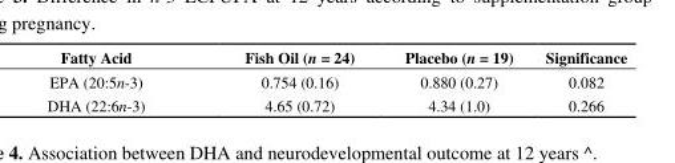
<table><thead><tr><td>Fatty Acid</td><td>Fish Oil (n = 24)</td><td>Placebo (n = 19)</td><td>Significance</td></tr></thead><tbody><tr><td>EPA (20:5n-3)</td><td>0.754 (0.16)</td><td>0.880 (0.27)</td><td>0.082</td></tr><tr><td>DHA (22:6n-3)</td><td>4.65 (0.72)</td><td>4.34 (1.0)</td><td>0.266</td></tr></tbody></table>